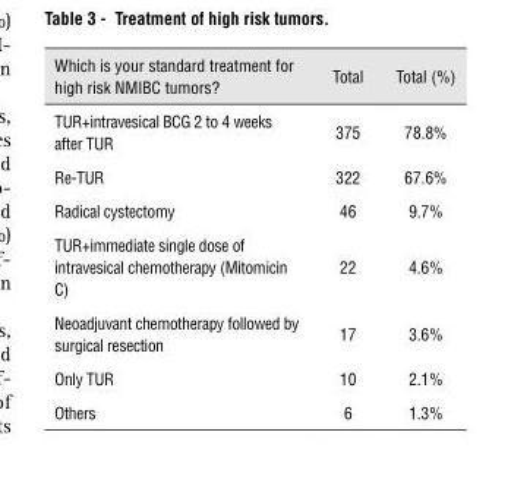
<table><thead><tr><td>Which is your standard treatment for high risk NMIBC tumors?</td><td>Total</td><td>Total (%)</td></tr></thead><tbody><tr><td>TUR+intravesical BCG 2 to 4 weeks after TUR</td><td>375</td><td>78.8%</td></tr><tr><td>Re-TUR</td><td>322</td><td>67.6%</td></tr><tr><td>Radical cystectomy</td><td>46</td><td>9.7%</td></tr><tr><td>TUR+immediate single dose of intravesical chemotherapy (Mitomicin C)</td><td>22</td><td>4.6%</td></tr><tr><td>Neoadjuvant chemotherapy followed by surgical resection</td><td>17</td><td>3.6%</td></tr><tr><td>Only TUR</td><td>10</td><td>2.1%</td></tr><tr><td>Others</td><td>6</td><td>1.3%</td></tr></tbody></table>